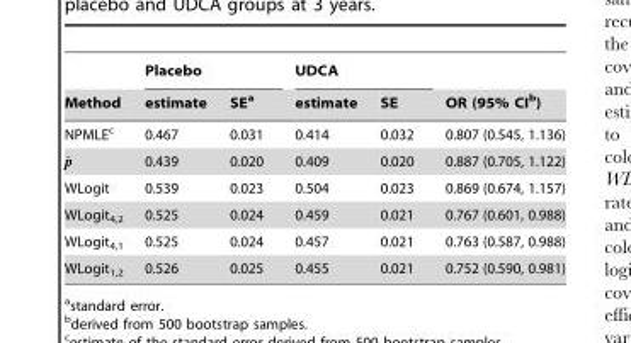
<table><thead><tr><td rowspan="2">Method</td><td colspan="2">Placebo</td><td colspan="2">UDCA</td><td rowspan="2">OR (95% CI<sup>b</sup>)</td></tr><tr><td>estimate</td><td>SE<sup>a</sup></td><td>estimate</td><td>SE</td></tr></thead><tbody><tr><td rowspan="2">NPMLEc ^p</td><td>0.467</td><td>0.031</td><td>0.414</td><td>0.032</td><td>0.807 (0.545, 1.136)</td></tr><tr><td>0.439</td><td>0.020</td><td>0.409</td><td>0.020</td><td>0.887 (0.705, 1.122)</td></tr><tr><td>WLogit</td><td>0.539</td><td>0.023</td><td>0.504</td><td>0.023</td><td>0.869 (0.674, 1.157)</td></tr><tr><td>WLogit<sub>4,2</sub></td><td>0.525</td><td>0.024</td><td>0.459</td><td>0.021</td><td>0.767 (0.601, 0.988)</td></tr><tr><td>WLogit<sub>4,1</sub></td><td>0.525</td><td>0.024</td><td>0.457</td><td>0.021</td><td>0.763 (0.587, 0.988)</td></tr><tr><td>WLogit<sub>1,2</sub></td><td>0.526</td><td>0.025</td><td>0.455</td><td>0.021</td><td>0.752 (0.590, 0.981)</td></tr></tbody></table>